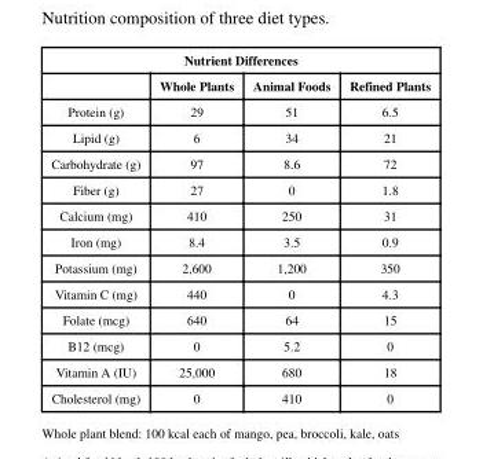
<table><thead><tr><td colspan="4">Nutrient Differences</td></tr><tr><td></td><td>Whole Plants</td><td>Animal Foods</td><td>Refined Plants</td></tr></thead><tbody><tr><td>Protein (g)</td><td>29</td><td>51</td><td>6.5</td></tr><tr><td>Lipid (g)</td><td>6</td><td>34</td><td>21</td></tr><tr><td>Carbohydrate (g)</td><td>97</td><td>8.6</td><td>72</td></tr><tr><td>Fiber (g)</td><td>27</td><td>0</td><td>1.8</td></tr><tr><td>Calcium (mg)</td><td>410</td><td>250</td><td>31</td></tr><tr><td>Iron (mg)</td><td>8.4</td><td>3.5</td><td>0.9</td></tr><tr><td>Potassium (mg)</td><td>2,600</td><td>1,200</td><td>350</td></tr><tr><td>Vitamin C (mg)</td><td>440</td><td>0</td><td>4.3</td></tr><tr><td>Folate (mcg)</td><td>640</td><td>64</td><td>15</td></tr><tr><td>B12 (mcg)</td><td>0</td><td>5.2</td><td>0</td></tr><tr><td>Vitamin A (IU)</td><td>25,000</td><td>680</td><td>18</td></tr><tr><td>Cholesterol (mg)</td><td>0</td><td>410</td><td>0</td></tr></tbody></table>